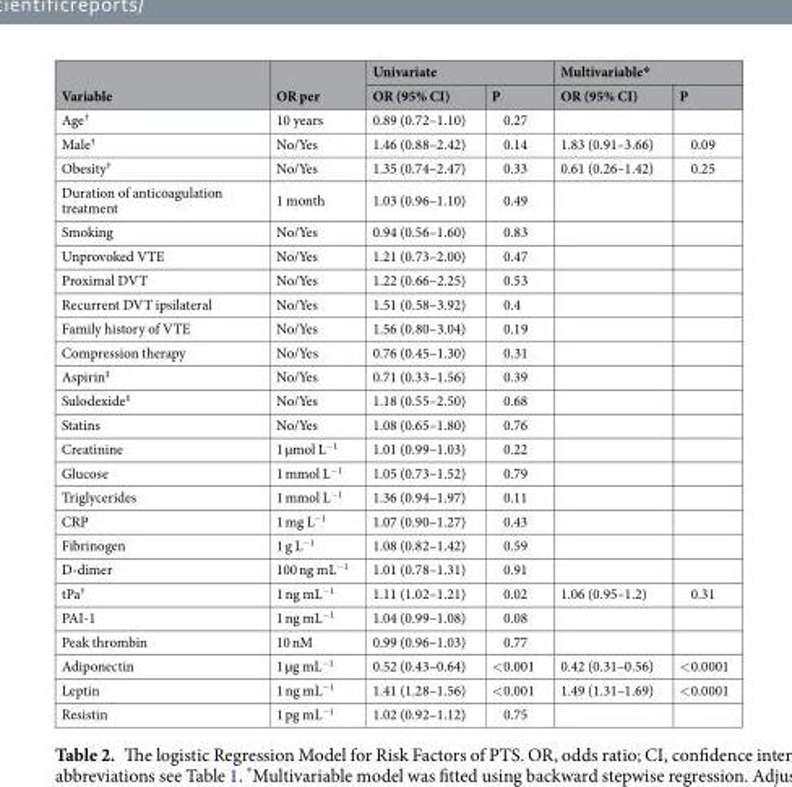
<table><thead><tr><td rowspan="2">Variable</td><td rowspan="2">OR per</td><td colspan="2">Univariate</td><td colspan="2">Multivariable*</td></tr><tr><td>OR (95% CI)</td><td>P</td><td>OR (95% CI)</td><td>P</td></tr></thead><tbody><tr><td>Age<sup>†</sup></td><td>10 years</td><td>0.89 (0.72–1.10)</td><td>0.27</td><td></td><td></td></tr><tr><td>Male<sup>†</sup></td><td>No/Yes</td><td>1.46 (0.88–2.42)</td><td>0.14</td><td>1.83 (0.91–3.66)</td><td>0.09</td></tr><tr><td>Obesity<sup>†</sup></td><td>No/Yes</td><td>1.35 (0.74–2.47)</td><td>0.33</td><td>0.61 (0.26–1.42)</td><td>0.25</td></tr><tr><td>Duration of anticoagulation treatment</td><td>1 month</td><td>1.03 (0.96–1.10)</td><td>0.49</td><td></td><td></td></tr><tr><td>Smoking</td><td>No/Yes</td><td>0.94 (0.56–1.60)</td><td>0.83</td><td></td><td></td></tr><tr><td>Unprovoked VTE</td><td>No/Yes</td><td>1.21 (0.73–2.00)</td><td>0.47</td><td></td><td></td></tr><tr><td>Proximal DVT</td><td>No/Yes</td><td>1.22 (0.66–2.25)</td><td>0.53</td><td></td><td></td></tr><tr><td>Recurrent DVT ipsilateral</td><td>No/Yes</td><td>1.51 (0.58–3.92)</td><td>0.4</td><td></td><td></td></tr><tr><td>Family history of VTE</td><td>No/Yes</td><td>1.56 (0.80–3.04)</td><td>0.19</td><td></td><td></td></tr><tr><td>Compression therapy</td><td>No/Yes</td><td>0.76 (0.45–1.30)</td><td>0.31</td><td></td><td></td></tr><tr><td>Aspirin<sup>‡</sup></td><td>No/Yes</td><td>0.71 (0.33–1.56)</td><td>0.39</td><td></td><td></td></tr><tr><td>Sulodexide<sup>‡</sup></td><td>No/Yes</td><td>1.18 (0.55–2.50)</td><td>0.68</td><td></td><td></td></tr><tr><td>Statins</td><td>No/Yes</td><td>1.08 (0.65–1.80)</td><td>0.76</td><td></td><td></td></tr><tr><td>Creatinine</td><td>1 µmol L<sup>−1</sup></td><td>1.01 (0.99–1.03)</td><td>0.22</td><td></td><td></td></tr><tr><td>Glucose</td><td>1 mmol L<sup>−1</sup></td><td>1.05 (0.73–1.52)</td><td>0.79</td><td></td><td></td></tr><tr><td>Triglycerides</td><td>1 mmol L<sup>−1</sup></td><td>1.36 (0.94–1.97)</td><td>0.11</td><td></td><td></td></tr><tr><td>CRP</td><td>1 mg L<sup>−1</sup></td><td>1.07 (0.90–1.27)</td><td>0.43</td><td></td><td></td></tr><tr><td>Fibrinogen</td><td>1 g L<sup>−1</sup></td><td>1.08 (0.82–1.42)</td><td>0.59</td><td></td><td></td></tr><tr><td>D-dimer</td><td>100 ng mL<sup>−1</sup></td><td>1.01 (0.78–1.31)</td><td>0.91</td><td></td><td></td></tr><tr><td>tPa<sup>†</sup></td><td>1 ng mL<sup>−1</sup></td><td>1.11 (1.02–1.21)</td><td>0.02</td><td>1.06 (0.95–1.2)</td><td>0.31</td></tr><tr><td>PAI-1</td><td>1 ng mL<sup>−1</sup></td><td>1.04 (0.99–1.08)</td><td>0.08</td><td></td><td></td></tr><tr><td>Peak thrombin</td><td>10 nM</td><td>0.99 (0.96–1.03)</td><td>0.77</td><td></td><td></td></tr><tr><td>Adiponectin</td><td>1 µg mL<sup>−1</sup></td><td>0.52 (0.43–0.64)</td><td>&lt;0.001</td><td>0.42 (0.31–0.56)</td><td>&lt;0.0001</td></tr><tr><td>Leptin</td><td>1 ng mL<sup>−1</sup></td><td>1.41 (1.28–1.56)</td><td>&lt;0.001</td><td>1.49 (1.31–1.69)</td><td>&lt;0.0001</td></tr><tr><td>Resistin</td><td>1 pg mL<sup>−1</sup></td><td>1.02 (0.92–1.12)</td><td>0.75</td><td></td><td></td></tr></tbody></table>